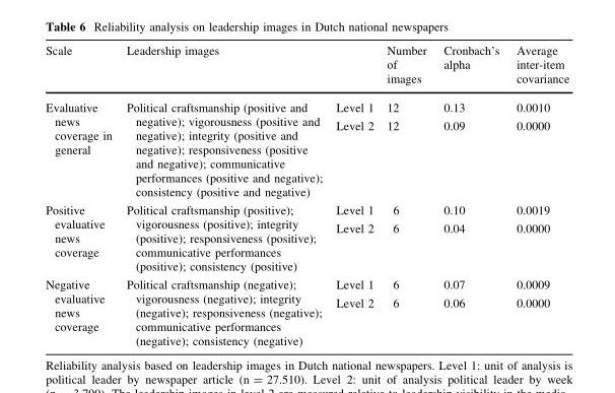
<table><thead><tr><td>Scale</td><td>Leadership images</td><td></td><td>Number of images</td><td>Cronbach’s alpha</td><td>Average inter-item covariance</td></tr></thead><tbody><tr><td rowspan="2">Evaluative news coverage in general</td><td rowspan="2">Political craftsmanship (positive and negative); vigorousness (positive and negative); integrity (positive and negative); responsiveness (positive and negative); communicative performances (positive and negative); consistency (positive and negative)</td><td>Level 1</td><td>12</td><td>0.13</td><td>0.0010</td></tr><tr><td>Level 2</td><td>12</td><td>0.09</td><td>0.0000</td></tr><tr><td rowspan="2">Positive evaluative news coverage</td><td rowspan="2">Political craftsmanship (positive); vigorousness (positive); integrity (positive); responsiveness (positive); communicative performances (positive); consistency (positive)</td><td>Level 1</td><td>6</td><td>0.10</td><td>0.0019</td></tr><tr><td>Level 2</td><td>6</td><td>0.04</td><td>0.0000</td></tr><tr><td rowspan="2">Negative evaluative news coverage</td><td rowspan="2">Political craftsmanship (negative); vigorousness (negative); integrity (negative); responsiveness (negative); communicative performances (negative); consistency (negative)</td><td>Level 1</td><td>6</td><td>0.07</td><td>0.0009</td></tr><tr><td>Level 2</td><td>6</td><td>0.06</td><td>0.0000</td></tr></tbody></table>